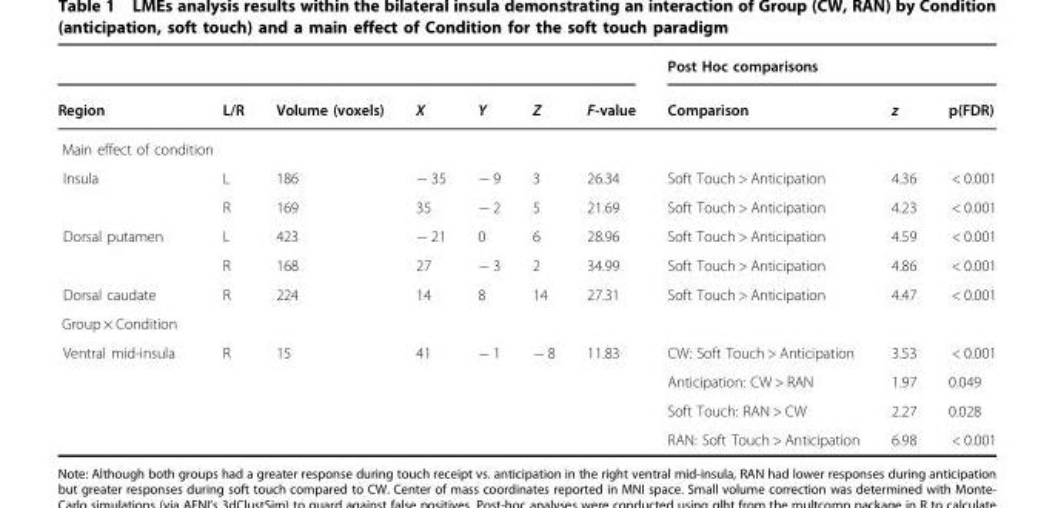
<table><thead><tr><td rowspan="2">Region</td><td rowspan="2">L/R</td><td rowspan="2">Volume (voxels)</td><td rowspan="2">X</td><td rowspan="2">Y</td><td rowspan="2">Z</td><td rowspan="2">F-value</td><td colspan="3">Post Hoc comparisons</td></tr><tr><td>Comparison</td><td>z</td><td>p(FDR)</td></tr></thead><tbody><tr><td colspan="10">Main effect of condition</td></tr><tr><td rowspan="2">Insula</td><td>L</td><td>186</td><td>− 35</td><td>− 9</td><td>3</td><td>26.34</td><td>Soft Touch &gt; Anticipation</td><td>4.36</td><td>&lt; 0.001</td></tr><tr><td>R</td><td>169</td><td>35</td><td>− 2</td><td>5</td><td>21.69</td><td>Soft Touch &gt; Anticipation</td><td>4.23</td><td>&lt; 0.001</td></tr><tr><td rowspan="2">Dorsal putamen</td><td>L</td><td>423</td><td>− 21</td><td>0</td><td>6</td><td>28.96</td><td>Soft Touch &gt; Anticipation</td><td>4.59</td><td>&lt; 0.001</td></tr><tr><td>R</td><td>168</td><td>27</td><td>− 3</td><td>2</td><td>34.99</td><td>Soft Touch &gt; Anticipation</td><td>4.86</td><td>&lt; 0.001</td></tr><tr><td>Dorsal caudate</td><td>R</td><td>224</td><td>14</td><td>8</td><td>14</td><td>27.31</td><td>Soft Touch &gt; Anticipation</td><td>4.47</td><td>&lt; 0.001</td></tr><tr><td colspan="10">Group × Condition</td></tr><tr><td rowspan="4">Ventral mid-insula</td><td rowspan="4">R</td><td>15</td><td>41</td><td>− 1</td><td>− 8</td><td>11.83</td><td>CW: Soft Touch &gt; Anticipation</td><td>3.53</td><td>&lt; 0.001</td></tr><tr><td></td><td></td><td></td><td></td><td></td><td>Anticipation: CW &gt; RAN</td><td>1.97</td><td>0.049</td></tr><tr><td></td><td></td><td></td><td></td><td></td><td>Soft Touch: RAN &gt; CW</td><td>2.27</td><td>0.028</td></tr><tr><td></td><td></td><td></td><td></td><td></td><td>RAN: Soft Touch &gt; Anticipation</td><td>6.98</td><td>&lt; 0.001</td></tr></tbody></table>